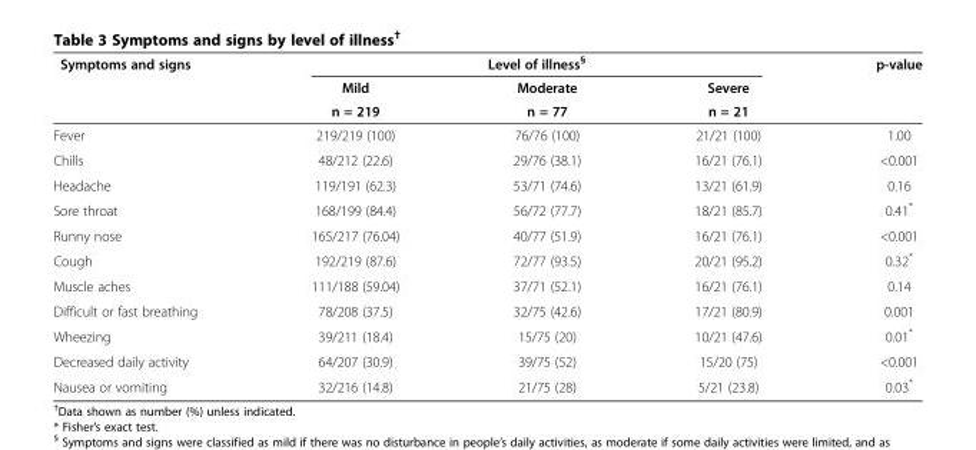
<table><thead><tr><td rowspan="3">Symptoms and signs</td><td colspan="3">Level of illness<sup>§</sup></td><td rowspan="3">p-value</td></tr><tr><td rowspan="2">Mild n = 219</td><td rowspan="2">Moderate n = 77</td><td rowspan="2">Severe n = 21</td></tr><tr></tr></thead><tbody><tr><td>Fever</td><td>219/219 (100)</td><td>76/76 (100)</td><td>21/21 (100)</td><td>1.00</td></tr><tr><td>Chills</td><td>48/212 (22.6)</td><td>29/76 (38.1)</td><td>16/21 (76.1)</td><td>&lt;0.001</td></tr><tr><td>Headache</td><td>119/191 (62.3)</td><td>53/71 (74.6)</td><td>13/21 (61.9)</td><td>0.16</td></tr><tr><td>Sore throat</td><td>168/199 (84.4)</td><td>56/72 (77.7)</td><td>18/21 (85.7)</td><td>0.41*</td></tr><tr><td>Runny nose</td><td>165/217 (76.04)</td><td>40/77 (51.9)</td><td>16/21 (76.1)</td><td>&lt;0.001</td></tr><tr><td>Cough</td><td>192/219 (87.6)</td><td>72/77 (93.5)</td><td>20/21 (95.2)</td><td>0.32*</td></tr><tr><td>Muscle aches</td><td>111/188 (59.04)</td><td>37/71 (52.1)</td><td>16/21 (76.1)</td><td>0.14</td></tr><tr><td>Difficult or fast breathing</td><td>78/208 (37.5)</td><td>32/75 (42.6)</td><td>17/21 (80.9)</td><td>0.001</td></tr><tr><td>Wheezing</td><td>39/211 (18.4)</td><td>15/75 (20)</td><td>10/21 (47.6)</td><td>0.01*</td></tr><tr><td>Decreased daily activity</td><td>64/207 (30.9)</td><td>39/75 (52)</td><td>15/20 (75)</td><td>&lt;0.001</td></tr><tr><td>Nausea or vomiting</td><td>32/216 (14.8)</td><td>21/75 (28)</td><td>5/21 (23.8)</td><td>0.03*</td></tr></tbody></table>